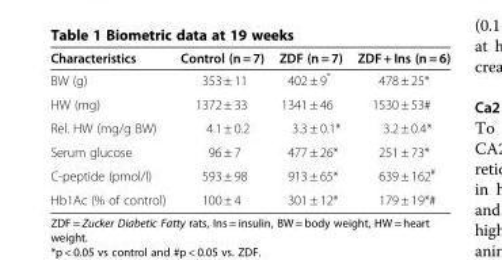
<table><thead><tr><td>Characteristics</td><td>Control (n = 7)</td><td>ZDF (n = 7)</td><td>ZDF + Ins (n = 6)</td></tr></thead><tbody><tr><td>BW (g)</td><td>353 ± 11</td><td>402 ± 9*</td><td>478 ± 25*</td></tr><tr><td>HW (mg)</td><td>1372 ± 33</td><td>1341 ± 46</td><td>1530 ± 53#</td></tr><tr><td>Rel. HW (mg/g BW)</td><td>4.1 ± 0.2</td><td>3.3 ± 0.1*</td><td>3.2 ± 0.4*</td></tr><tr><td>Serum glucose</td><td>96 ± 7</td><td>477 ± 26*</td><td>251 ± 73*</td></tr><tr><td>C-peptide (pmol/l)</td><td>593 ± 98</td><td>913 ± 65*</td><td>639 ± 162<sup>#</sup></td></tr><tr><td>Hb1Ac (% of control)</td><td>100 ± 4</td><td>301 ± 12*</td><td>179 ± 19*#</td></tr></tbody></table>